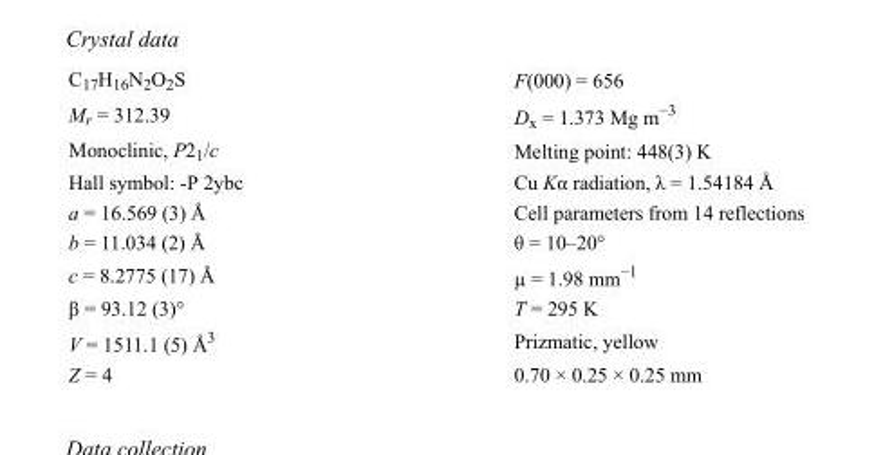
<table><tbody><tr><td>C<sub>17</sub>H<sub>16</sub>N<sub>2</sub>O<sub>2</sub>S</td><td>F(000) = 656</td></tr><tr><td>M<sub>r</sub> = 312.39</td><td>D<sub>x</sub> = 1.373 Mg m<sup>−3</sup></td></tr><tr><td>Monoclinic, P2<sub>1</sub>/c</td><td>Melting point: 448(3) K</td></tr><tr><td>Hall symbol: -P 2ybc</td><td>Cu Kα radiation, λ = 1.54184 Å</td></tr><tr><td>a = 16.569 (3) Å</td><td>Cell parameters from 14 reflections</td></tr><tr><td>b = 11.034 (2) Å</td><td>θ = 10–20°</td></tr><tr><td>c = 8.2775 (17) Å</td><td>µ = 1.98 mm<sup>−1</sup></td></tr><tr><td>β = 93.12 (3)°</td><td>T = 295 K</td></tr><tr><td>V = 1511.1 (5) Å<sup>3</sup></td><td>Prizmatic, yellow</td></tr><tr><td>Z = 4</td><td>0.70 × 0.25 × 0.25 mm</td></tr></tbody></table>